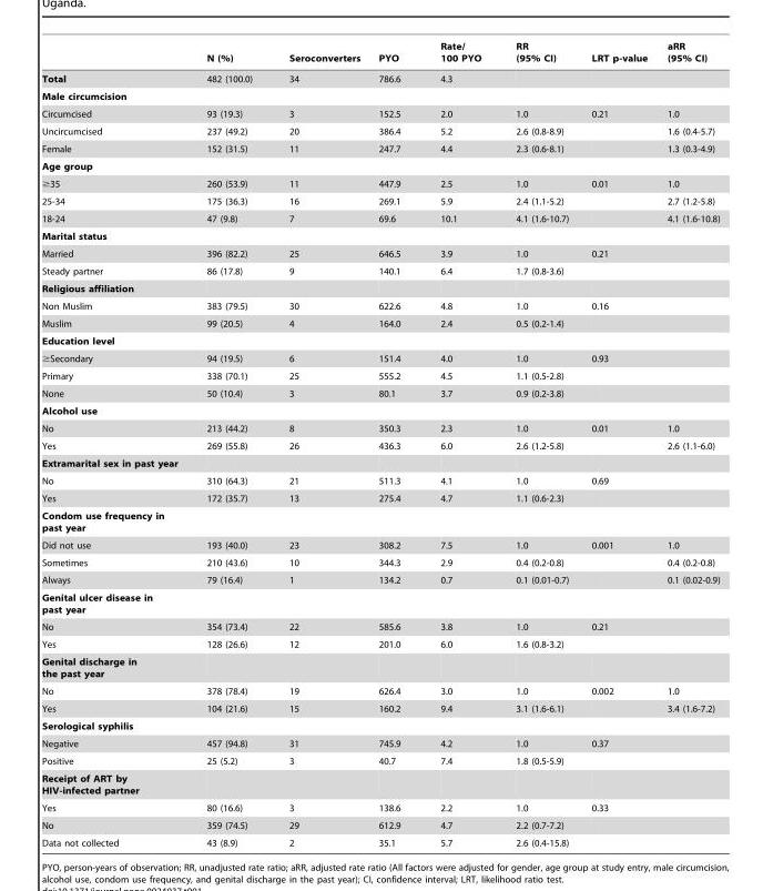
<table><thead><tr><td></td><td>N (%)</td><td>Seroconverters</td><td>PYO</td><td>Rate/ 100 PYO</td><td>RR (95% CI)</td><td>LRT p-value</td><td>aRR (95% CI)</td></tr></thead><tbody><tr><td>Total</td><td>482 (100.0)</td><td>34</td><td>786.6</td><td>4.3</td><td></td><td></td><td></td></tr><tr><td colspan="8">Male circumcision</td></tr><tr><td>Circumcised</td><td>93 (19.3)</td><td>3</td><td>152.5</td><td>2.0</td><td>1.0</td><td>0.21</td><td>1.0</td></tr><tr><td>Uncircumcised</td><td>237 (49.2)</td><td>20</td><td>386.4</td><td>5.2</td><td>2.6 (0.8-8.9)</td><td></td><td>1.6 (0.4-5.7)</td></tr><tr><td>Female</td><td>152 (31.5)</td><td>11</td><td>247.7</td><td>4.4</td><td>2.3 (0.6-8.1)</td><td></td><td>1.3 (0.3-4.9)</td></tr><tr><td colspan="8">Age group</td></tr><tr><td>≥35</td><td>260 (53.9)</td><td>11</td><td>447.9</td><td>2.5</td><td>1.0</td><td>0.01</td><td>1.0</td></tr><tr><td>25-34</td><td>175 (36.3)</td><td>16</td><td>269.1</td><td>5.9</td><td>2.4 (1.1-5.2)</td><td></td><td>2.7 (1.2-5.8)</td></tr><tr><td>18-24</td><td>47 (9.8)</td><td>7</td><td>69.6</td><td>10.1</td><td>4.1 (1.6-10.7)</td><td></td><td>4.1 (1.6-10.8)</td></tr><tr><td colspan="8">Marital status</td></tr><tr><td>Married</td><td>396 (82.2)</td><td>25</td><td>646.5</td><td>3.9</td><td>1.0</td><td>0.21</td><td></td></tr><tr><td>Steady partner</td><td>86 (17.8)</td><td>9</td><td>140.1</td><td>6.4</td><td>1.7 (0.8-3.6)</td><td></td><td></td></tr><tr><td colspan="8">Religious affiliation</td></tr><tr><td>Non Muslim</td><td>383 (79.5)</td><td>30</td><td>622.6</td><td>4.8</td><td>1.0</td><td>0.16</td><td></td></tr><tr><td>Muslim</td><td>99 (20.5)</td><td>4</td><td>164.0</td><td>2.4</td><td>0.5 (0.2-1.4)</td><td></td><td></td></tr><tr><td colspan="8">Education level</td></tr><tr><td>≥Secondary</td><td>94 (19.5)</td><td>6</td><td>151.4</td><td>4.0</td><td>1.0</td><td>0.93</td><td></td></tr><tr><td>Primary</td><td>338 (70.1)</td><td>25</td><td>555.2</td><td>4.5</td><td>1.1 (0.5-2.8)</td><td></td><td></td></tr><tr><td>None</td><td>50 (10.4)</td><td>3</td><td>80.1</td><td>3.7</td><td>0.9 (0.2-3.8)</td><td></td><td></td></tr><tr><td colspan="8">Alcohol use</td></tr><tr><td>No</td><td>213 (44.2)</td><td>8</td><td>350.3</td><td>2.3</td><td>1.0</td><td>0.01</td><td>1.0</td></tr><tr><td>Yes</td><td>269 (55.8)</td><td>26</td><td>436.3</td><td>6.0</td><td>2.6 (1.2-5.8)</td><td></td><td>2.6 (1.1-6.0)</td></tr><tr><td colspan="8">Extramarital sex in past year</td></tr><tr><td>No</td><td>310 (64.3)</td><td>21</td><td>511.3</td><td>4.1</td><td>1.0</td><td>0.69</td><td></td></tr><tr><td>Yes</td><td>172 (35.7)</td><td>13</td><td>275.4</td><td>4.7</td><td>1.1 (0.6-2.3)</td><td></td><td></td></tr><tr><td colspan="8">Condom use frequency in past year</td></tr><tr><td>Did not use</td><td>193 (40.0)</td><td>23</td><td>308.2</td><td>7.5</td><td>1.0</td><td>0.001</td><td>1.0</td></tr><tr><td>Sometimes</td><td>210 (43.6)</td><td>10</td><td>344.3</td><td>2.9</td><td>0.4 (0.2-0.8)</td><td></td><td>0.4 (0.2-0.8)</td></tr><tr><td>Always</td><td>79 (16.4)</td><td>1</td><td>134.2</td><td>0.7</td><td>0.1 (0.01-0.7)</td><td></td><td>0.1 (0.02-0.9)</td></tr><tr><td colspan="8">Genital ulcer disease in past year</td></tr><tr><td>No</td><td>354 (73.4)</td><td>22</td><td>585.6</td><td>3.8</td><td>1.0</td><td>0.21</td><td></td></tr><tr><td>Yes</td><td>128 (26.6)</td><td>12</td><td>201.0</td><td>6.0</td><td>1.6 (0.8-3.2)</td><td></td><td></td></tr><tr><td colspan="8">Genital discharge in the past year</td></tr><tr><td>No</td><td>378 (78.4)</td><td>19</td><td>626.4</td><td>3.0</td><td>1.0</td><td>0.002</td><td>1.0</td></tr><tr><td>Yes</td><td>104 (21.6)</td><td>15</td><td>160.2</td><td>9.4</td><td>3.1 (1.6-6.1)</td><td></td><td>3.4 (1.6-7.2)</td></tr><tr><td colspan="8">Serological syphilis</td></tr><tr><td>Negative</td><td>457 (94.8)</td><td>31</td><td>745.9</td><td>4.2</td><td>1.0</td><td>0.37</td><td></td></tr><tr><td>Positive</td><td>25 (5.2)</td><td>3</td><td>40.7</td><td>7.4</td><td>1.8 (0.5-5.9)</td><td></td><td></td></tr><tr><td colspan="8">Receipt of ART by HIV-infected partner</td></tr><tr><td>Yes</td><td>80 (16.6)</td><td>3</td><td>138.6</td><td>2.2</td><td>1.0</td><td>0.33</td><td></td></tr><tr><td>No</td><td>359 (74.5)</td><td>29</td><td>612.9</td><td>4.7</td><td>2.2 (0.7-7.2)</td><td></td><td></td></tr><tr><td>Data not collected</td><td>43 (8.9)</td><td>2</td><td>35.1</td><td>5.7</td><td>2.6 (0.4-15.8)</td><td></td><td></td></tr></tbody></table>